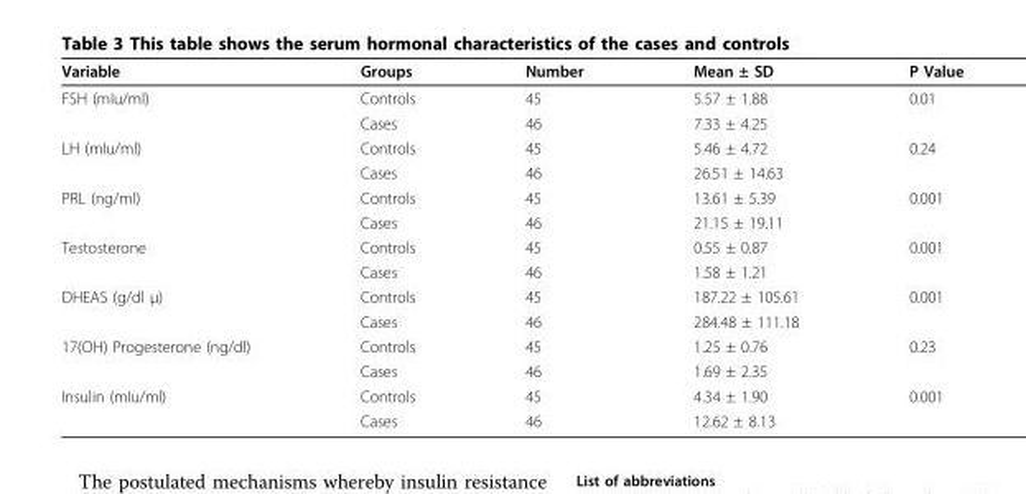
<table><thead><tr><td>Variable</td><td>Groups</td><td>Number</td><td>Mean ± SD</td><td>P Value</td></tr></thead><tbody><tr><td rowspan="2">FSH (mIu/ml)</td><td>Controls</td><td>45</td><td>5.57 ± 1.88</td><td>0.01</td></tr><tr><td>Cases</td><td>46</td><td>7.33 ± 4.25</td><td></td></tr><tr><td rowspan="2">LH (mIu/ml)</td><td>Controls</td><td>45</td><td>5.46 ± 4.72</td><td>0.24</td></tr><tr><td>Cases</td><td>46</td><td>26.51 ± 14.63</td><td></td></tr><tr><td rowspan="2">PRL (ng/ml)</td><td>Controls</td><td>45</td><td>13.61 ± 5.39</td><td>0.001</td></tr><tr><td>Cases</td><td>46</td><td>21.15 ± 19.11</td><td></td></tr><tr><td rowspan="2">Testosterone</td><td>Controls</td><td>45</td><td>0.55 ± 0.87</td><td>0.001</td></tr><tr><td>Cases</td><td>46</td><td>1.58 ± 1.21</td><td></td></tr><tr><td rowspan="2">DHEAS (g/dl μ)</td><td>Controls</td><td>45</td><td>187.22 ± 105.61</td><td>0.001</td></tr><tr><td>Cases</td><td>46</td><td>284.48 ± 111.18</td><td></td></tr><tr><td rowspan="2">17(OH) Progesterone (ng/dl)</td><td>Controls</td><td>45</td><td>1.25 ± 0.76</td><td>0.23</td></tr><tr><td>Cases</td><td>46</td><td>1.69 ± 2.35</td><td></td></tr><tr><td rowspan="2">Insulin (mIu/ml)</td><td>Controls</td><td>45</td><td>4.34 ± 1.90</td><td>0.001</td></tr><tr><td>Cases</td><td>46</td><td>12.62 ± 8.13</td><td></td></tr></tbody></table>